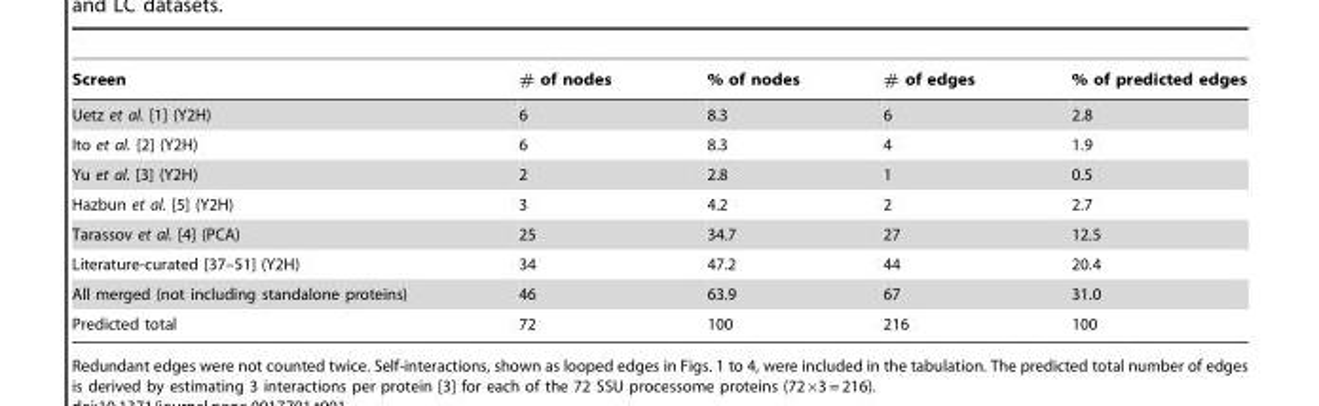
<table><thead><tr><td>Screen</td><td># of nodes</td><td>% of nodes</td><td># of edges</td><td>% of predicted edges</td></tr></thead><tbody><tr><td>Uetz et al. [1] (Y2H)</td><td>6</td><td>8.3</td><td>6</td><td>2.8</td></tr><tr><td>Ito et al. [2] (Y2H)</td><td>6</td><td>8.3</td><td>4</td><td>1.9</td></tr><tr><td>Yu et al. [3] (Y2H)</td><td>2</td><td>2.8</td><td>1</td><td>0.5</td></tr><tr><td>Hazbun et al. [5] (Y2H)</td><td>3</td><td>4.2</td><td>2</td><td>2.7</td></tr><tr><td>Tarassov et al. [4] (PCA)</td><td>25</td><td>34.7</td><td>27</td><td>12.5</td></tr><tr><td>Literature-curated [37–51] (Y2H)</td><td>34</td><td>47.2</td><td>44</td><td>20.4</td></tr><tr><td>All merged (not including standalone proteins)</td><td>46</td><td>63.9</td><td>67</td><td>31.0</td></tr><tr><td>Predicted total</td><td>72</td><td>100</td><td>216</td><td>100</td></tr></tbody></table>